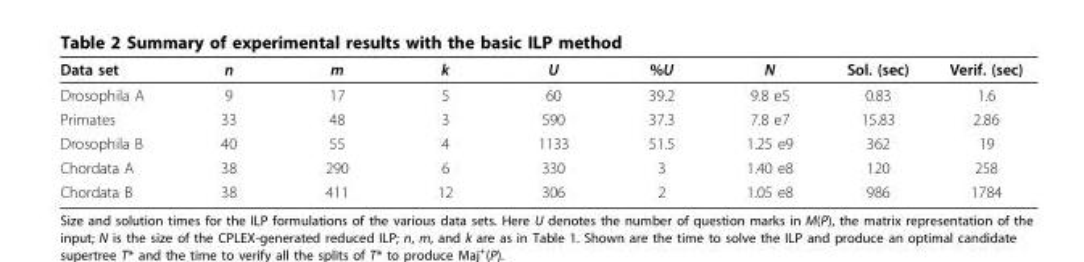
<table><thead><tr><td>Data set</td><td>n</td><td>m</td><td>k</td><td>U</td><td>%U</td><td>N</td><td>Sol. (sec)</td><td>Verif. (sec)</td></tr></thead><tbody><tr><td>Drosophila A</td><td>9</td><td>17</td><td>5</td><td>60</td><td>39.2</td><td>9.8 e5</td><td>0.83</td><td>1.6</td></tr><tr><td>Primates</td><td>33</td><td>48</td><td>3</td><td>590</td><td>37.3</td><td>7.8 e7</td><td>15.83</td><td>2.86</td></tr><tr><td>Drosophila B</td><td>40</td><td>55</td><td>4</td><td>1133</td><td>51.5</td><td>1.25 e9</td><td>362</td><td>19</td></tr><tr><td>Chordata A</td><td>38</td><td>290</td><td>6</td><td>330</td><td>3</td><td>1.40 e8</td><td>120</td><td>258</td></tr><tr><td>Chordata B</td><td>38</td><td>411</td><td>12</td><td>306</td><td>2</td><td>1.05 e8</td><td>986</td><td>1784</td></tr></tbody></table>